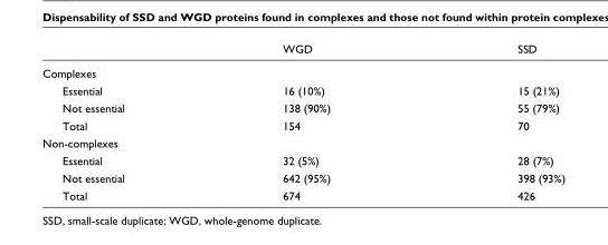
<table><thead><tr><td></td><td>WGD</td><td>SSD</td></tr></thead><tbody><tr><td colspan="3">Complexes</td></tr><tr><td>Essential</td><td>16 (10%)</td><td>15 (21%)</td></tr><tr><td>Not essential</td><td>138 (90%)</td><td>55 (79%)</td></tr><tr><td>Total</td><td>154</td><td>70</td></tr><tr><td colspan="3">Non-complexes</td></tr><tr><td>Essential</td><td>32 (5%)</td><td>28 (7%)</td></tr><tr><td>Not essential</td><td>642 (95%)</td><td>398 (93%)</td></tr><tr><td>Total</td><td>674</td><td>426</td></tr></tbody></table>